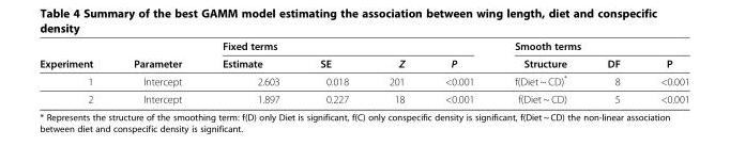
<table><thead><tr><td rowspan="2">Experiment</td><td rowspan="2">Parameter</td><td colspan="4">Fixed terms</td><td colspan="3">Smooth terms</td></tr><tr><td>Estimate</td><td>SE</td><td>Z</td><td>P</td><td>Structure</td><td>DF</td><td>P</td></tr></thead><tbody><tr><td>1</td><td>Intercept</td><td>2.603</td><td>0.018</td><td>201</td><td>&lt;0.001</td><td>f(Diet ~ CD)*</td><td>8</td><td>&lt;0.001</td></tr><tr><td>2</td><td>Intercept</td><td>1.897</td><td>0.227</td><td>18</td><td>&lt;0.001</td><td>f(Diet ~ CD)</td><td>5</td><td>&lt;0.001</td></tr></tbody></table>